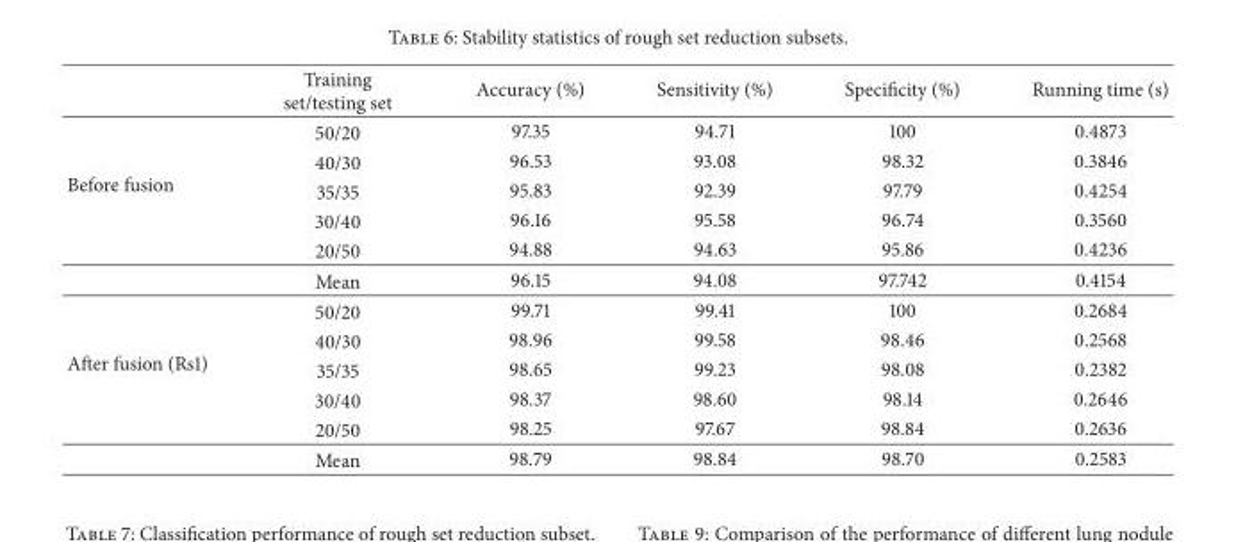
<table><thead><tr><td></td><td>Training set/testing set</td><td>Accuracy (%)</td><td>Sensitivity (%)</td><td>Specificity (%)</td><td>Running time (s)</td></tr></thead><tbody><tr><td rowspan="6">Before fusion</td><td>50/20</td><td>97.35</td><td>94.71</td><td>100</td><td>0.4873</td></tr><tr><td>40/30</td><td>96.53</td><td>93.08</td><td>98.32</td><td>0.3846</td></tr><tr><td>35/35</td><td>95.83</td><td>92.39</td><td>97.79</td><td>0.4254</td></tr><tr><td>30/40</td><td>96.16</td><td>95.58</td><td>96.74</td><td>0.3560</td></tr><tr><td>20/50</td><td>94.88</td><td>94.63</td><td>95.86</td><td>0.4236</td></tr><tr><td>Mean</td><td>96.15</td><td>94.08</td><td>97.742</td><td>0.4154</td></tr><tr><td rowspan="6">After fusion (Rs1)</td><td>50/20</td><td>99.71</td><td>99.41</td><td>100</td><td>0.2684</td></tr><tr><td>40/30</td><td>98.96</td><td>99.58</td><td>98.46</td><td>0.2568</td></tr><tr><td>35/35</td><td>98.65</td><td>99.23</td><td>98.08</td><td>0.2382</td></tr><tr><td>30/40</td><td>98.37</td><td>98.60</td><td>98.14</td><td>0.2646</td></tr><tr><td>20/50</td><td>98.25</td><td>97.67</td><td>98.84</td><td>0.2636</td></tr><tr><td>Mean</td><td>98.79</td><td>98.84</td><td>98.70</td><td>0.2583</td></tr></tbody></table>